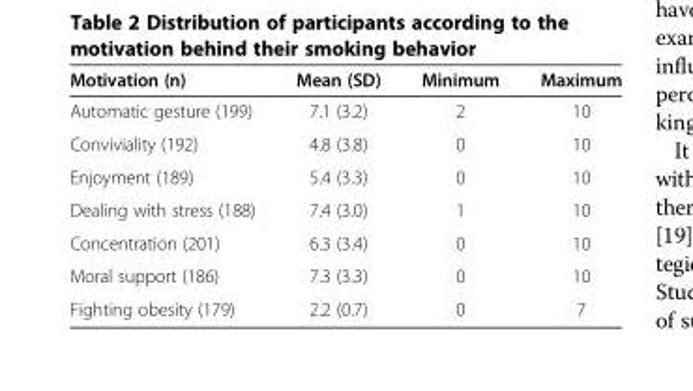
<table><thead><tr><td>Motivation (n)</td><td>Mean (SD)</td><td>Minimum</td><td>Maximum</td></tr></thead><tbody><tr><td>Automatic gesture (199)</td><td>7.1 (3.2)</td><td>2</td><td>10</td></tr><tr><td>Conviviality (192)</td><td>4.8 (3.8)</td><td>0</td><td>10</td></tr><tr><td>Enjoyment (189)</td><td>5.4 (3.3)</td><td>0</td><td>10</td></tr><tr><td>Dealing with stress (188)</td><td>7.4 (3.0)</td><td>1</td><td>10</td></tr><tr><td>Concentration (201)</td><td>6.3 (3.4)</td><td>0</td><td>10</td></tr><tr><td>Moral support (186)</td><td>7.3 (3.3)</td><td>0</td><td>10</td></tr><tr><td>Fighting obesity (179)</td><td>2.2 (0.7)</td><td>0</td><td>7</td></tr></tbody></table>